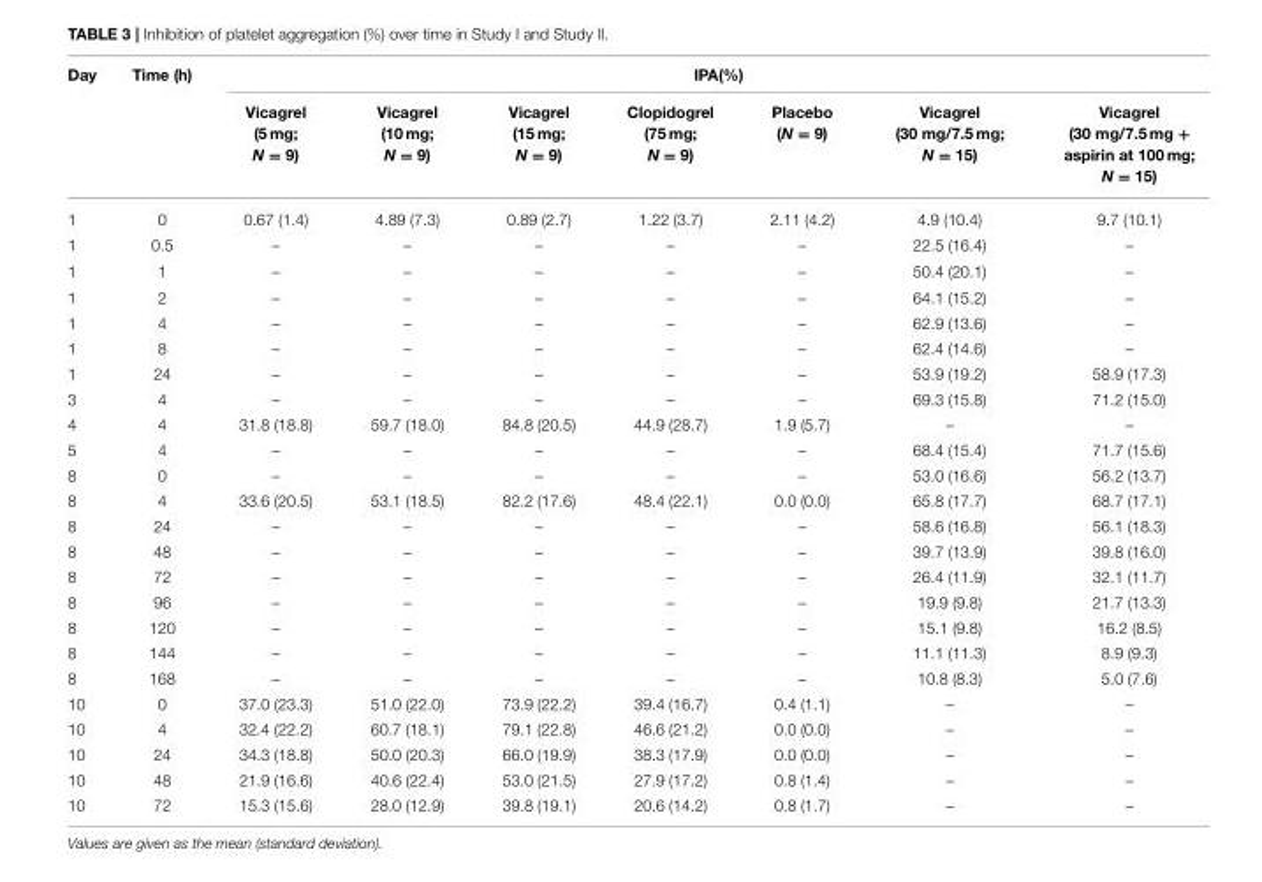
<table><thead><tr><td rowspan="2">Day</td><td rowspan="2">Time (h)</td><td colspan="7">IPA(%)</td></tr><tr><td>Vicagrel (5 mg; N = 9)</td><td>Vicagrel (10 mg; N = 9)</td><td>Vicagrel (15 mg; N = 9)</td><td>Clopidogrel (75 mg; N = 9)</td><td>Placebo (N = 9)</td><td>Vicagrel (30 mg/7.5 mg; N = 15)</td><td>Vicagrel (30 mg/7.5 mg + aspirin at 100 mg; N = 15)</td></tr></thead><tbody><tr><td>1</td><td>0</td><td>0.67 (1.4)</td><td>4.89 (7.3)</td><td>0.89 (2.7)</td><td>1.22 (3.7)</td><td>2.11 (4.2)</td><td>4.9 (10.4)</td><td>9.7 (10.1)</td></tr><tr><td>1</td><td>0.5</td><td>–</td><td>–</td><td>–</td><td>–</td><td>–</td><td>22.5 (16.4)</td><td>–</td></tr><tr><td>1</td><td>1</td><td>–</td><td>–</td><td>–</td><td>–</td><td>–</td><td>50.4 (20.1)</td><td>–</td></tr><tr><td>1</td><td>2</td><td>–</td><td>–</td><td>–</td><td>–</td><td>–</td><td>64.1 (15.2)</td><td>–</td></tr><tr><td>1</td><td>4</td><td>–</td><td>–</td><td>–</td><td>–</td><td>–</td><td>62.9 (13.6)</td><td>–</td></tr><tr><td>1</td><td>8</td><td>–</td><td>–</td><td>–</td><td>–</td><td>–</td><td>62.4 (14.6)</td><td>–</td></tr><tr><td>1</td><td>24</td><td>–</td><td>–</td><td>–</td><td>–</td><td>–</td><td>53.9 (19.2)</td><td>58.9 (17.3)</td></tr><tr><td>3</td><td>4</td><td>–</td><td>–</td><td>–</td><td>–</td><td>–</td><td>69.3 (15.8)</td><td>71.2 (15.0)</td></tr><tr><td>4</td><td>4</td><td>31.8 (18.8)</td><td>59.7 (18.0)</td><td>84.8 (20.5)</td><td>44.9 (28.7)</td><td>1.9 (5.7)</td><td>–</td><td>–</td></tr><tr><td>5</td><td>4</td><td>–</td><td>–</td><td>–</td><td>–</td><td>–</td><td>68.4 (15.4)</td><td>71.7 (15.6)</td></tr><tr><td>8</td><td>0</td><td>–</td><td>–</td><td>–</td><td>–</td><td>–</td><td>53.0 (16.6)</td><td>56.2 (13.7)</td></tr><tr><td>8</td><td>4</td><td>33.6 (20.5)</td><td>53.1 (18.5)</td><td>82.2 (17.6)</td><td>48.4 (22.1)</td><td>0.0 (0.0)</td><td>65.8 (17.7)</td><td>68.7 (17.1)</td></tr><tr><td>8</td><td>24</td><td>–</td><td>–</td><td>–</td><td>–</td><td>–</td><td>58.6 (16.8)</td><td>56.1 (18.3)</td></tr><tr><td>8</td><td>48</td><td>–</td><td>–</td><td>–</td><td>–</td><td>–</td><td>39.7 (13.9)</td><td>39.8 (16.0)</td></tr><tr><td>8</td><td>72</td><td>–</td><td>–</td><td>–</td><td>–</td><td>–</td><td>26.4 (11.9)</td><td>32.1 (11.7)</td></tr><tr><td>8</td><td>96</td><td>–</td><td>–</td><td>–</td><td>–</td><td>–</td><td>19.9 (9.8)</td><td>21.7 (13.3)</td></tr><tr><td>8</td><td>120</td><td>–</td><td>–</td><td>–</td><td>–</td><td>–</td><td>15.1 (9.8)</td><td>16.2 (8.5)</td></tr><tr><td>8</td><td>144</td><td>–</td><td>–</td><td>–</td><td>–</td><td>–</td><td>11.1 (11.3)</td><td>8.9 (9.3)</td></tr><tr><td>8</td><td>168</td><td>–</td><td>–</td><td>–</td><td>–</td><td>–</td><td>10.8 (8.3)</td><td>5.0 (7.6)</td></tr><tr><td>10</td><td>0</td><td>37.0 (23.3)</td><td>51.0 (22.0)</td><td>73.9 (22.2)</td><td>39.4 (16.7)</td><td>0.4 (1.1)</td><td>–</td><td>–</td></tr><tr><td>10</td><td>4</td><td>32.4 (22.2)</td><td>60.7 (18.1)</td><td>79.1 (22.8)</td><td>46.6 (21.2)</td><td>0.0 (0.0)</td><td>–</td><td>–</td></tr><tr><td>10</td><td>24</td><td>34.3 (18.8)</td><td>50.0 (20.3)</td><td>66.0 (19.9)</td><td>38.3 (17.9)</td><td>0.0 (0.0)</td><td>–</td><td>–</td></tr><tr><td>10</td><td>48</td><td>21.9 (16.6)</td><td>40.6 (22.4)</td><td>53.0 (21.5)</td><td>27.9 (17.2)</td><td>0.8 (1.4)</td><td>–</td><td>–</td></tr><tr><td>10</td><td>72</td><td>15.3 (15.6)</td><td>28.0 (12.9)</td><td>39.8 (19.1)</td><td>20.6 (14.2)</td><td>0.8 (1.7)</td><td>–</td><td>–</td></tr></tbody></table>